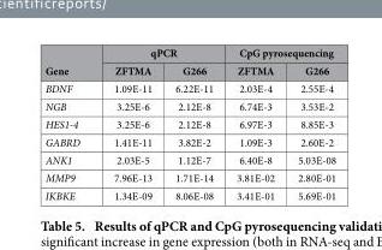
<table><thead><tr><td rowspan="2">Gene</td><td colspan="2">qPCR</td><td colspan="2">CpG pyrosequencing</td></tr><tr><td>ZFTMA</td><td>G266</td><td>ZFTMA</td><td>G266</td></tr></thead><tbody><tr><td>BDNF</td><td>1.09E-11</td><td>6.22E-11</td><td>2.03E-4</td><td>2.55E-4</td></tr><tr><td>NGB</td><td>3.25E-6</td><td>2.12E-8</td><td>6.74E-3</td><td>3.53E-2</td></tr><tr><td>HES1-4</td><td>3.25E-6</td><td>2.12E-8</td><td>6.97E-3</td><td>8.85E-3</td></tr><tr><td>GABRD</td><td>1.41E-11</td><td>3.82E-2</td><td>1.09E-3</td><td>2.60E-2</td></tr><tr><td>ANK1</td><td>2.03E-5</td><td>1.12E-7</td><td>6.40E-8</td><td>5.03E-08</td></tr><tr><td>MMP9</td><td>7.96E-13</td><td>1.71E-14</td><td>3.81E-02</td><td>2.80E-01</td></tr><tr><td>IKBKE</td><td>1.34E-09</td><td>8.06E-08</td><td>3.41E-01</td><td>5.69E-01</td></tr></tbody></table>